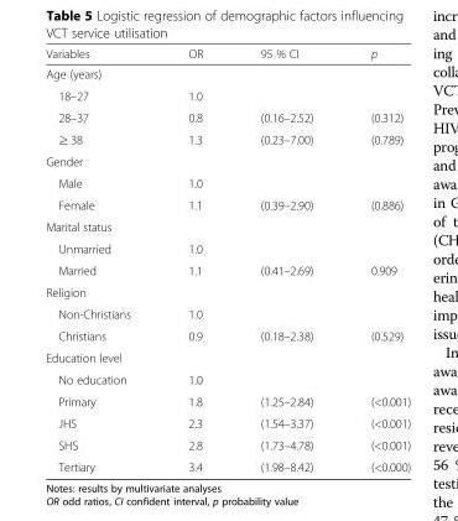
<table><thead><tr><td>Variables</td><td>OR</td><td>95 % CI</td><td>p</td></tr></thead><tbody><tr><td colspan="4">Age (years)</td></tr><tr><td>18–27</td><td>1.0</td><td></td><td></td></tr><tr><td>28–37</td><td>0.8</td><td>(0.16–2.52)</td><td>(0.312)</td></tr><tr><td>≥ 38</td><td>1.3</td><td>(0.23–7.00)</td><td>(0.789)</td></tr><tr><td colspan="4">Gender</td></tr><tr><td>Male</td><td>1.0</td><td></td><td></td></tr><tr><td>Female</td><td>1.1</td><td>(0.39–2.90)</td><td>(0.886)</td></tr><tr><td colspan="4">Marital status</td></tr><tr><td>Unmarried</td><td>1.0</td><td></td><td></td></tr><tr><td>Married</td><td>1.1</td><td>(0.41–2.69)</td><td>0.909</td></tr><tr><td colspan="4">Religion</td></tr><tr><td>Non-Christians</td><td>1.0</td><td></td><td></td></tr><tr><td>Christians</td><td>0.9</td><td>(0.18–2.38)</td><td>(0.529)</td></tr><tr><td colspan="4">Education level</td></tr><tr><td>No education</td><td>1.0</td><td></td><td></td></tr><tr><td>Primary</td><td>1.8</td><td>(1.25–2.84)</td><td>(&lt;0.001)</td></tr><tr><td>JHS</td><td>2.3</td><td>(1.54–3.37)</td><td>(&lt;0.001)</td></tr><tr><td>SHS</td><td>2.8</td><td>(1.73–4.78)</td><td>(&lt;0.001)</td></tr><tr><td>Tertiary</td><td>3.4</td><td>(1.98–8.42)</td><td>(&lt;0.000)</td></tr></tbody></table>